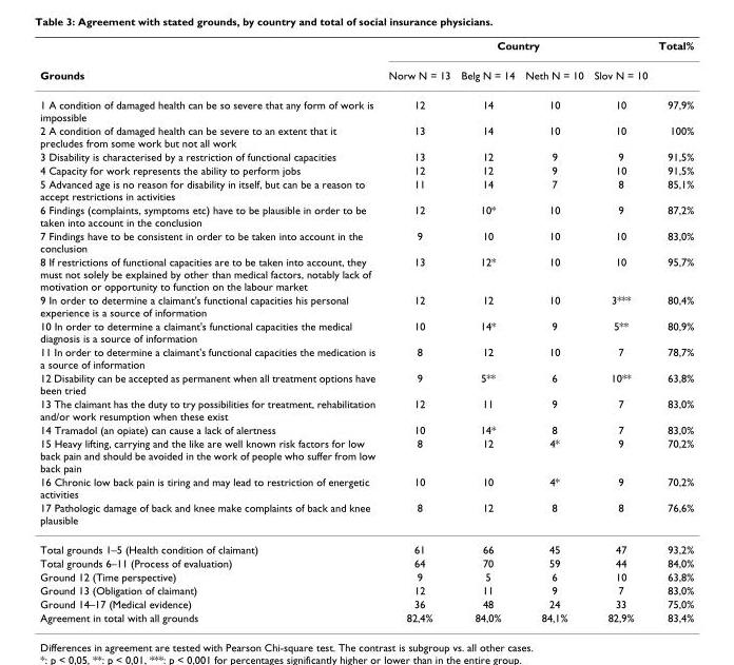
<table><thead><tr><td rowspan="2">Grounds</td><td colspan="4">Country</td><td rowspan="2">Total%</td></tr><tr><td>Norw N = 13</td><td>Belg N = 14</td><td>Neth N = 10</td><td>Slov N = 10</td></tr></thead><tbody><tr><td>1 A condition of damaged health can be so severe that any form of work is impossible</td><td>12</td><td>14</td><td>10</td><td>10</td><td>97,9%</td></tr><tr><td>2 A condition of damaged health can be severe to an extent that it precludes from some work but not all work</td><td>13</td><td>14</td><td>10</td><td>10</td><td>100%</td></tr><tr><td>3 Disability is characterised by a restriction of functional capacities</td><td>13</td><td>12</td><td>9</td><td>9</td><td>91,5%</td></tr><tr><td>4 Capacity for work represents the ability to perform jobs</td><td>12</td><td>12</td><td>9</td><td>10</td><td>91,5%</td></tr><tr><td>5 Advanced age is no reason for disability in itself, but can be a reason to accept restrictions in activities</td><td>11</td><td>14</td><td>7</td><td>8</td><td>85,1%</td></tr><tr><td>6 Findings (complaints, symptoms etc) have to be plausible in order to be taken into account in the conclusion</td><td>12</td><td>10*</td><td>10</td><td>9</td><td>87,2%</td></tr><tr><td>7 Findings have to be consistent in order to be taken into account in the conclusion</td><td>9</td><td>10</td><td>10</td><td>10</td><td>83,0%</td></tr><tr><td>8 If restrictions of functional capacities are to be taken into account, they must not solely be explained by other than medical factors, notably lack of motivation or opportunity to function on the labour market</td><td>13</td><td>12*</td><td>10</td><td>10</td><td>95,7%</td></tr><tr><td>9 In order to determine a claimant&#x27;s functional capacities his personal experience is a source of information</td><td>12</td><td>12</td><td>10</td><td>3***</td><td>80,4%</td></tr><tr><td>10 In order to determine a claimant&#x27;s functional capacities the medical diagnosis is a source of information</td><td>10</td><td>14*</td><td>9</td><td>5**</td><td>80,9%</td></tr><tr><td>11 In order to determine a claimant&#x27;s functional capacities the medication is a source of information</td><td>8</td><td>12</td><td>10</td><td>7</td><td>78,7%</td></tr><tr><td>12 Disability can be accepted as permanent when all treatment options have been tried</td><td>9</td><td>5**</td><td>6</td><td>10**</td><td>63,8%</td></tr><tr><td>13 The claimant has the duty to try possibilities for treatment, rehabilitation and/or work resumption when these exist</td><td>12</td><td>11</td><td>9</td><td>7</td><td>83,0%</td></tr><tr><td>14 Tramadol (an opiate) can cause a lack of alertness</td><td>10</td><td>14*</td><td>8</td><td>7</td><td>83,0%</td></tr><tr><td>15 Heavy lifting, carrying and the like are well known risk factors for low back pain and should be avoided in the work of people who suffer from low back pain</td><td>8</td><td>12</td><td>4*</td><td>9</td><td>70,2%</td></tr><tr><td>16 Chronic low back pain is tiring and may lead to restriction of energetic activities</td><td>10</td><td>10</td><td>4*</td><td>9</td><td>70,2%</td></tr><tr><td>17 Pathologic damage of back and knee make complaints of back and knee plausible</td><td>8</td><td>12</td><td>8</td><td>8</td><td>76,6%</td></tr><tr><td>Total grounds 1–5 (Health condition of claimant)</td><td>61</td><td>66</td><td>45</td><td>47</td><td>93,2%</td></tr><tr><td>Total grounds 6–11 (Process of evaluation)</td><td>64</td><td>70</td><td>59</td><td>44</td><td>84,0%</td></tr><tr><td>Ground 12 (Time perspective)</td><td>9</td><td>5</td><td>6</td><td>10</td><td>63,8%</td></tr><tr><td>Ground 13 (Obligation of claimant)</td><td>12</td><td>11</td><td>9</td><td>7</td><td>83,0%</td></tr><tr><td>Ground 14–17 (Medical evidence)</td><td>36</td><td>48</td><td>24</td><td>33</td><td>75,0%</td></tr><tr><td>Agreement in total with all grounds</td><td>82,4%</td><td>84,0%</td><td>84,1%</td><td>82,9%</td><td>83,4%</td></tr></tbody></table>